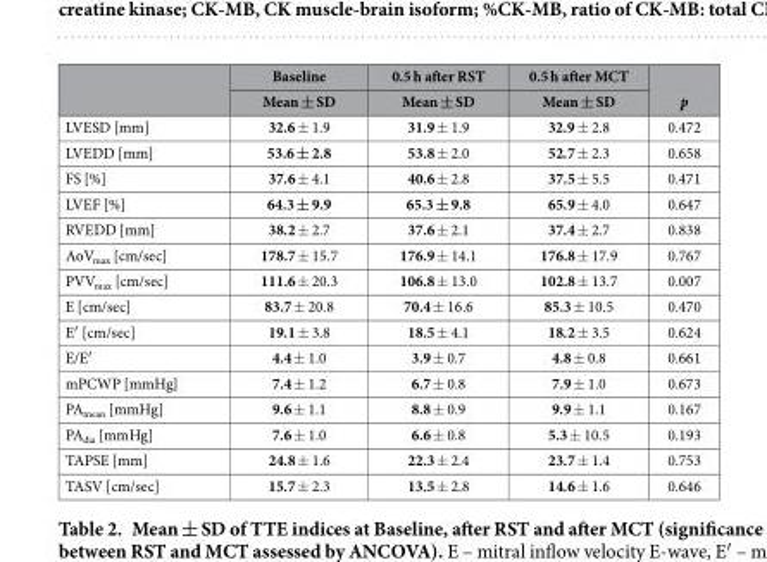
<table><thead><tr><td rowspan="2"></td><td rowspan="2">Baseline Mean ± SD</td><td rowspan="2">0.5 h after RST Mean ± SD</td><td rowspan="2">0.5 h after MCT Mean ± SD</td><td rowspan="2">p</td></tr><tr></tr></thead><tbody><tr><td>LVESD [mm]</td><td>32.6 ± 1.9</td><td>31.9 ± 1.9</td><td>32.9 ± 2.8</td><td>0.472</td></tr><tr><td>LVEDD [mm]</td><td>53.6 ± 2.8</td><td>53.8 ± 2.0</td><td>52.7 ± 2.3</td><td>0.658</td></tr><tr><td>FS [%]</td><td>37.6 ± 4.1</td><td>40.6 ± 2.8</td><td>37.5 ± 5.5</td><td>0.471</td></tr><tr><td>LVEF [%]</td><td>64.3 ± 9.9</td><td>65.3 ± 9.8</td><td>65.9 ± 4.0</td><td>0.647</td></tr><tr><td>RVEDD [mm]</td><td>38.2 ± 2.7</td><td>37.6 ± 2.1</td><td>37.4 ± 2.7</td><td>0.838</td></tr><tr><td>AoV<sub>max</sub> [cm/sec]</td><td>178.7 ± 15.7</td><td>176.9 ± 14.1</td><td>176.8 ± 17.9</td><td>0.767</td></tr><tr><td>PVV<sub>max</sub> [cm/sec]</td><td>111.6 ± 20.3</td><td>106.8 ± 13.0</td><td>102.8 ± 13.7</td><td>0.007</td></tr><tr><td>E [cm/sec]</td><td>83.7 ± 20.8</td><td>70.4 ± 16.6</td><td>85.3 ± 10.5</td><td>0.470</td></tr><tr><td>E′ [cm/sec]</td><td>19.1 ± 3.8</td><td>18.5 ± 4.1</td><td>18.2 ± 3.5</td><td>0.624</td></tr><tr><td>E/E′</td><td>4.4 ± 1.0</td><td>3.9 ± 0.7</td><td>4.8 ± 0.8</td><td>0.661</td></tr><tr><td>mPCWP [mmHg]</td><td>7.4 ± 1.2</td><td>6.7 ± 0.8</td><td>7.9 ± 1.0</td><td>0.673</td></tr><tr><td>PA<sub>mean</sub> [mmHg]</td><td>9.6 ± 1.1</td><td>8.8 ± 0.9</td><td>9.9 ± 1.1</td><td>0.167</td></tr><tr><td>PA<sub>dia</sub> [mmHg]</td><td>7.6 ± 1.0</td><td>6.6 ± 0.8</td><td>5.3 ± 10.5</td><td>0.193</td></tr><tr><td>TAPSE [mm]</td><td>24.8 ± 1.6</td><td>22.3 ± 2.4</td><td>23.7 ± 1.4</td><td>0.753</td></tr><tr><td>TASV [cm/sec]</td><td>15.7 ± 2.3</td><td>13.5 ± 2.8</td><td>14.6 ± 1.6</td><td>0.646</td></tr></tbody></table>